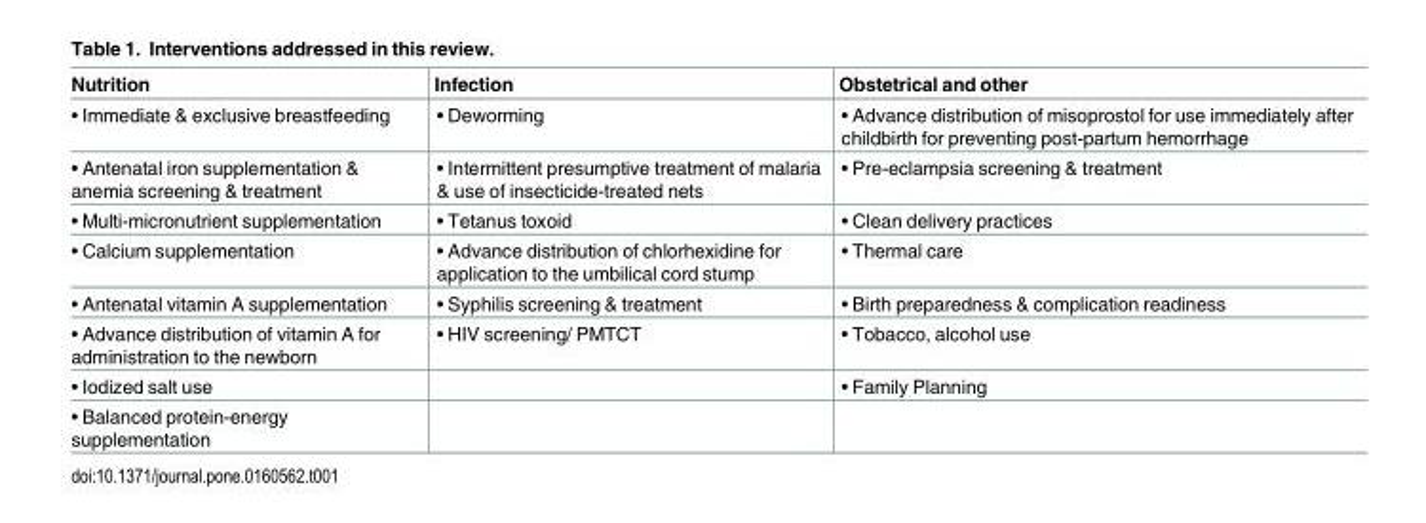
<table><thead><tr><td>Nutrition</td><td>Infection</td><td>Obstetrical and other</td></tr></thead><tbody><tr><td>• Immediate &amp; exclusive breastfeeding</td><td>• Deworming</td><td>• Advance distribution of misoprostol for use immediately after childbirth for preventing post-partum hemorrhage</td></tr><tr><td>• Antenatal iron supplementation &amp; anemia screening &amp; treatment</td><td>• Intermittent presumptive treatment of malaria &amp; use of insecticide-treated nets</td><td>• Pre-eclampsia screening &amp; treatment</td></tr><tr><td>• Multi-micronutrient supplementation</td><td>• Tetanus toxoid</td><td>• Clean delivery practices</td></tr><tr><td>• Calcium supplementation</td><td>• Advance distribution of chlorhexidine for application to the umbilical cord stump</td><td>• Thermal care</td></tr><tr><td>• Antenatal vitamin A supplementation</td><td>• Syphilis screening &amp; treatment</td><td>• Birth preparedness &amp; complication readiness</td></tr><tr><td>• Advance distribution of vitamin A for administration to the newborn</td><td>• HIV screening/ PMTCT</td><td>• Tobacco, alcohol use</td></tr><tr><td>• Iodized salt use</td><td></td><td>• Family Planning</td></tr><tr><td>• Balanced protein-energy supplementation</td><td></td><td></td></tr></tbody></table>